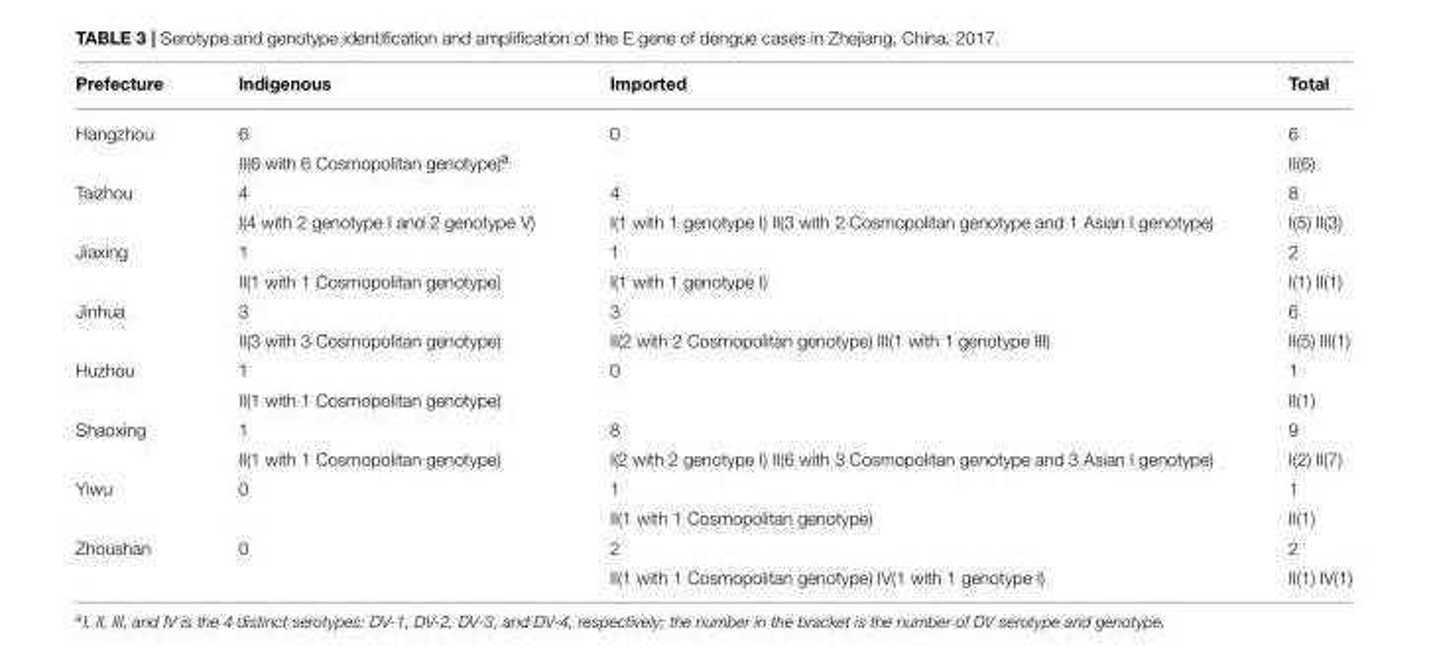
<table><thead><tr><td>Prefecture</td><td>Indigenous</td><td>Imported</td><td>Total</td></tr></thead><tbody><tr><td rowspan="2">Hangzhou</td><td>6</td><td>0</td><td>6</td></tr><tr><td>II(6 with 6 Cosmopolitan genotype)<sup>a</sup></td><td></td><td>II(6)</td></tr><tr><td rowspan="2">Taizhou</td><td>4</td><td>4</td><td>8</td></tr><tr><td>I(4 with 2 genotype I and 2 genotype V)</td><td>I(1 with 1 genotype I) II(3 with 2 Cosmopolitan genotype and 1 Asian I genotype)</td><td>I(5) II(3)</td></tr><tr><td rowspan="2">Jiaxing</td><td>1</td><td>1</td><td>2</td></tr><tr><td>II(1 with 1 Cosmopolitan genotype)</td><td>I(1 with 1 genotype I)</td><td>I(1) II(1)</td></tr><tr><td rowspan="2">Jinhua</td><td>3</td><td>3</td><td>6</td></tr><tr><td>II(3 with 3 Cosmopolitan genotype)</td><td>II(2 with 2 Cosmopolitan genotype) III(1 with 1 genotype III)</td><td>II(5) III(1)</td></tr><tr><td rowspan="2">Huzhou</td><td>1</td><td>0</td><td>1</td></tr><tr><td>II(1 with 1 Cosmopolitan genotype)</td><td></td><td>II(1)</td></tr><tr><td rowspan="2">Shaoxing</td><td>1</td><td>8</td><td>9</td></tr><tr><td>II(1 with 1 Cosmopolitan genotype)</td><td>I(2 with 2 genotype I) II(6 with 3 Cosmopolitan genotype and 3 Asian I genotype)</td><td>I(2) II(7)</td></tr><tr><td rowspan="2">Yiwu</td><td>0</td><td>1</td><td>1</td></tr><tr><td></td><td>II(1 with 1 Cosmopolitan genotype)</td><td>II(1)</td></tr><tr><td rowspan="2">Zhoushan</td><td>0</td><td>2</td><td>2</td></tr><tr><td></td><td>II(1 with 1 Cosmopolitan genotype) IV(1 with 1 genotype I)</td><td>II(1) IV(1)</td></tr></tbody></table>